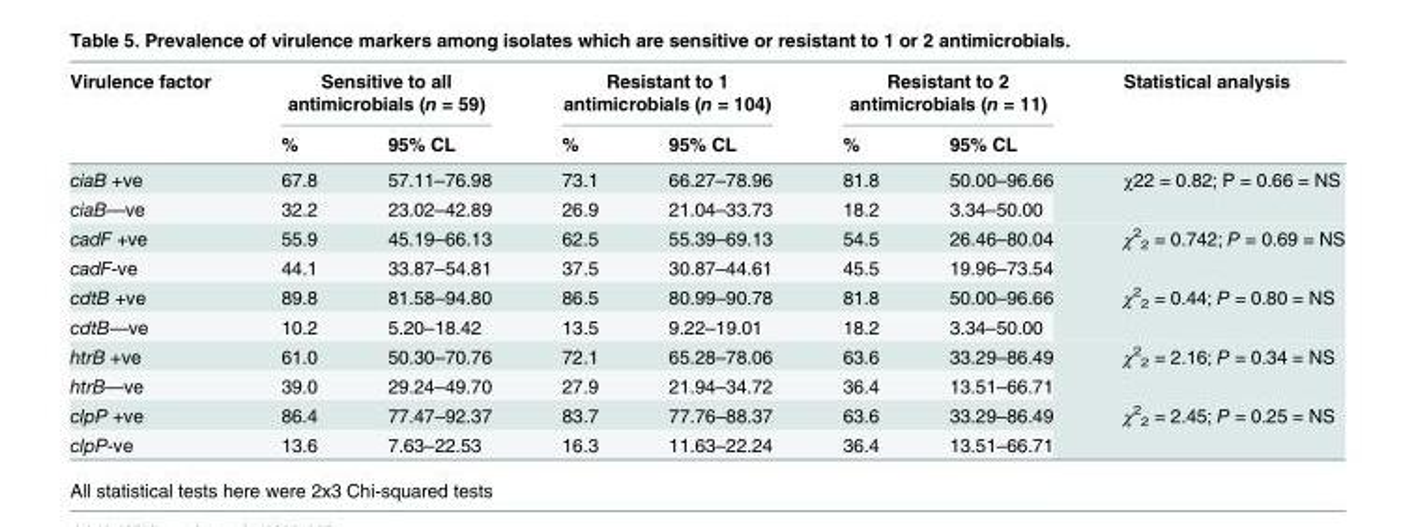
<table><thead><tr><td rowspan="2">Virulence factor</td><td colspan="2">Sensitive to all antimicrobials (n = 59)</td><td colspan="2">Resistant to 1 antimicrobials (n = 104)</td><td colspan="2">Resistant to 2 antimicrobials (n = 11)</td><td rowspan="2">Statistical analysis</td></tr><tr><td>%</td><td>95% CL</td><td>%</td><td>95% CL</td><td>%</td><td>95% CL</td></tr></thead><tbody><tr><td>ciaB +ve</td><td>67.8</td><td>57.11–76.98</td><td>73.1</td><td>66.27–78.96</td><td>81.8</td><td>50.00–96.66</td><td rowspan="2">χ22 = 0.82; P = 0.66 = NS</td></tr><tr><td>ciaB—ve</td><td>32.2</td><td>23.02–42.89</td><td>26.9</td><td>21.04–33.73</td><td>18.2</td><td>3.34–50.00</td></tr><tr><td>cadF +ve</td><td>55.9</td><td>45.19–66.13</td><td>62.5</td><td>55.39–69.13</td><td>54.5</td><td>26.46–80.04</td><td rowspan="2">χ<sup>2</sup> <sub>2</sub> = 0.742; P = 0.69 = NS</td></tr><tr><td>cadF-ve</td><td>44.1</td><td>33.87–54.81</td><td>37.5</td><td>30.87–44.61</td><td>45.5</td><td>19.96–73.54</td></tr><tr><td>cdtB +ve</td><td>89.8</td><td>81.58–94.80</td><td>86.5</td><td>80.99–90.78</td><td>81.8</td><td>50.00–96.66</td><td rowspan="2">χ<sup>2</sup> <sub>2</sub> = 0.44; P = 0.80 = NS</td></tr><tr><td>cdtB—ve</td><td>10.2</td><td>5.20–18.42</td><td>13.5</td><td>9.22–19.01</td><td>18.2</td><td>3.34–50.00</td></tr><tr><td>htrB +ve</td><td>61.0</td><td>50.30–70.76</td><td>72.1</td><td>65.28–78.06</td><td>63.6</td><td>33.29–86.49</td><td rowspan="2">χ<sup>2</sup> <sub>2</sub> = 2.16; P = 0.34 = NS</td></tr><tr><td>htrB—ve</td><td>39.0</td><td>29.24–49.70</td><td>27.9</td><td>21.94–34.72</td><td>36.4</td><td>13.51–66.71</td></tr><tr><td>clpP +ve</td><td>86.4</td><td>77.47–92.37</td><td>83.7</td><td>77.76–88.37</td><td>63.6</td><td>33.29–86.49</td><td rowspan="2">χ<sup>2</sup> <sub>2</sub> = 2.45; P = 0.25 = NS</td></tr><tr><td>clpP-ve</td><td>13.6</td><td>7.63–22.53</td><td>16.3</td><td>11.63–22.24</td><td>36.4</td><td>13.51–66.71</td></tr></tbody></table>